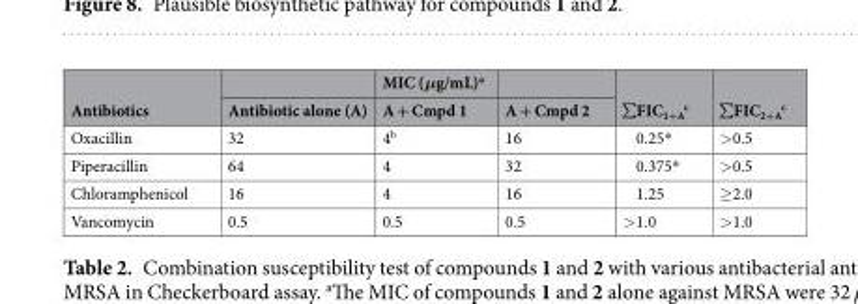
<table><thead><tr><td rowspan="2">Antibiotics</td><td rowspan="2">Antibiotic alone (A)</td><td rowspan="2">MIC (μg/mL)<sup>a</sup> A + Cmpd 1</td><td rowspan="2">A + Cmpd 2</td><td rowspan="2">∑FIC<sub>1+A</sub> <sup>c</sup></td><td rowspan="2">∑FIC<sub>2+A</sub> <sup>c</sup></td></tr><tr></tr></thead><tbody><tr><td>Oxacillin</td><td>32</td><td>4<sup>b</sup></td><td>16</td><td>0.25*</td><td>&gt;0.5</td></tr><tr><td>Piperacillin</td><td>64</td><td>4</td><td>32</td><td>0.375*</td><td>&gt;0.5</td></tr><tr><td>Chloramphenicol</td><td>16</td><td>4</td><td>16</td><td>1.25</td><td>≥2.0</td></tr><tr><td>Vancomycin</td><td>0.5</td><td>0.5</td><td>0.5</td><td>&gt;1.0</td><td>&gt;1.0</td></tr></tbody></table>